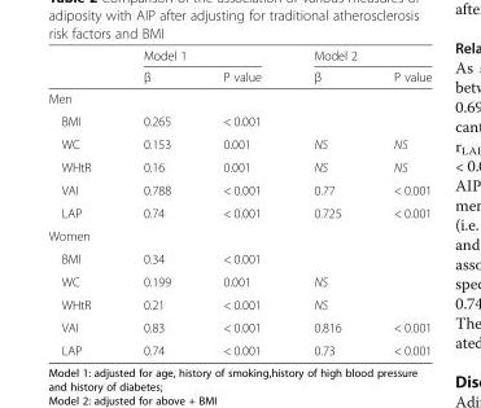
<table><thead><tr><td rowspan="2"></td><td colspan="2">Model 1</td><td colspan="2">Model 2</td></tr><tr><td>β</td><td>P value</td><td>β</td><td>P value</td></tr></thead><tbody><tr><td colspan="5">Men</td></tr><tr><td>BMI</td><td>0.265</td><td>&lt; 0.001</td><td></td><td></td></tr><tr><td>WC</td><td>0.153</td><td>0.001</td><td>NS</td><td>NS</td></tr><tr><td>WHtR</td><td>0.16</td><td>0.001</td><td>NS</td><td>NS</td></tr><tr><td>VAI</td><td>0.788</td><td>&lt; 0.001</td><td>0.77</td><td>&lt; 0.001</td></tr><tr><td>LAP</td><td>0.74</td><td>&lt; 0.001</td><td>0.725</td><td>&lt; 0.001</td></tr><tr><td colspan="5">Women</td></tr><tr><td>BMI</td><td>0.34</td><td>&lt; 0.001</td><td></td><td></td></tr><tr><td>WC</td><td>0.199</td><td>0.001</td><td>NS</td><td></td></tr><tr><td>WHtR</td><td>0.21</td><td>&lt; 0.001</td><td>NS</td><td></td></tr><tr><td>VAI</td><td>0.83</td><td>&lt; 0.001</td><td>0.816</td><td>&lt; 0.001</td></tr><tr><td>LAP</td><td>0.74</td><td>&lt; 0.001</td><td>0.73</td><td>&lt; 0.001</td></tr></tbody></table>